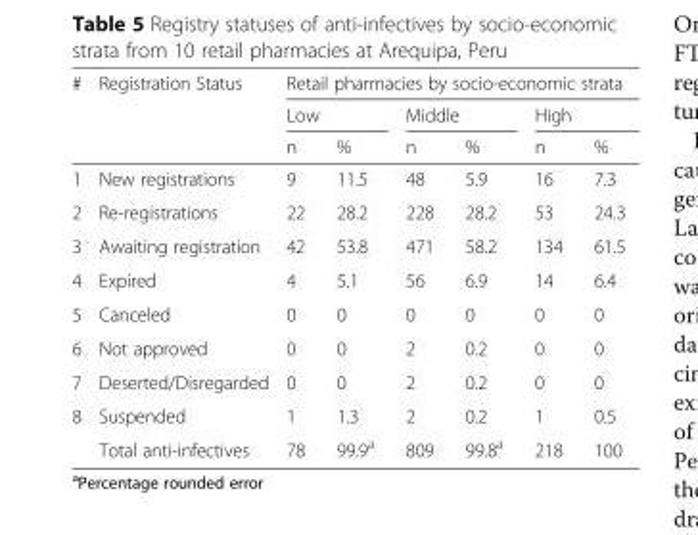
<table><thead><tr><td rowspan="3">#</td><td rowspan="3">Registration Status</td><td colspan="6">Retail pharmacies by socio-economic strata</td></tr><tr><td colspan="2">Low</td><td colspan="2">Middle</td><td colspan="2">High</td></tr><tr><td>n</td><td>%</td><td>n</td><td>%</td><td>n</td><td>%</td></tr></thead><tbody><tr><td>1</td><td>New registrations</td><td>9</td><td>11.5</td><td>48</td><td>5.9</td><td>16</td><td>7.3</td></tr><tr><td>2</td><td>Re-registrations</td><td>22</td><td>28.2</td><td>228</td><td>28.2</td><td>53</td><td>24.3</td></tr><tr><td>3</td><td>Awaiting registration</td><td>42</td><td>53.8</td><td>471</td><td>58.2</td><td>134</td><td>61.5</td></tr><tr><td>4</td><td>Expired</td><td>4</td><td>5.1</td><td>56</td><td>6.9</td><td>14</td><td>6.4</td></tr><tr><td>5</td><td>Canceled</td><td>0</td><td>0</td><td>0</td><td>0</td><td>0</td><td>0</td></tr><tr><td>6</td><td>Not approved</td><td>0</td><td>0</td><td>2</td><td>0.2</td><td>0</td><td>0</td></tr><tr><td>7</td><td>Deserted/Disregarded</td><td>0</td><td>0</td><td>2</td><td>0.2</td><td>0</td><td>0</td></tr><tr><td rowspan="2">8</td><td>Suspended</td><td>1</td><td>1.3</td><td>2</td><td>0.2</td><td>1</td><td>0.5</td></tr><tr><td>Total anti-infectives</td><td>78</td><td>99.9<sup>a</sup></td><td>809</td><td>99.8<sup>a</sup></td><td>218</td><td>100</td></tr></tbody></table>